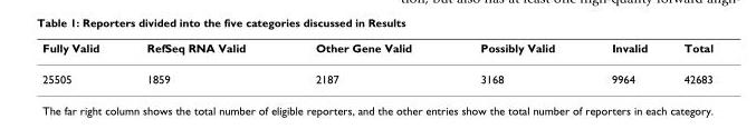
<table><thead><tr><td>Fully Valid</td><td>RefSeq RNA Valid</td><td>Other Gene Valid</td><td>Possibly Valid</td><td>Invalid</td><td>Total</td></tr></thead><tbody><tr><td>25505</td><td>1859</td><td>2187</td><td>3168</td><td>9964</td><td>42683</td></tr></tbody></table>